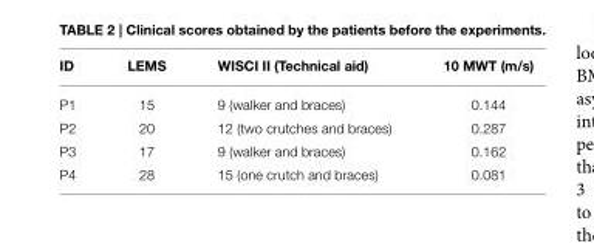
<table><thead><tr><td>ID</td><td>LEMS</td><td>WISCI II (Technical aid)</td><td>10 MWT (m/s)</td></tr></thead><tbody><tr><td>P1</td><td>15</td><td>9 (walker and braces)</td><td>0.144</td></tr><tr><td>P2</td><td>20</td><td>12 (two crutches and braces)</td><td>0.287</td></tr><tr><td>P3</td><td>17</td><td>9 (walker and braces)</td><td>0.162</td></tr><tr><td>P4</td><td>28</td><td>15 (one crutch and braces)</td><td>0.081</td></tr></tbody></table>